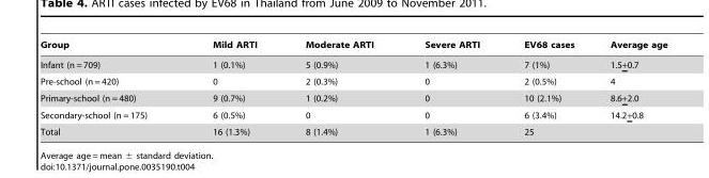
<table><thead><tr><td>Group</td><td>Mild ARTI</td><td>Moderate ARTI</td><td>Severe ARTI</td><td>EV68 cases</td><td>Average age</td></tr></thead><tbody><tr><td>Infant (n = 709)</td><td>1 (0.1%)</td><td>5 (0.9%)</td><td>1 (6.3%)</td><td>7 (1%)</td><td>1.5+0.7</td></tr><tr><td>Pre-school (n = 420)</td><td>0</td><td>2 (0.3%)</td><td>0</td><td>2 (0.5%)</td><td>4</td></tr><tr><td>Primary-school (n = 480)</td><td>9 (0.7%)</td><td>1 (0.2%)</td><td>0</td><td>10 (2.1%)</td><td>8.6+2.0</td></tr><tr><td>Secondary-school (n = 175)</td><td>6 (0.5%)</td><td>0</td><td>0</td><td>6 (3.4%)</td><td>14.2+0.8</td></tr><tr><td>Total</td><td>16 (1.3%)</td><td>8 (1.4%)</td><td>1 (6.3%)</td><td>25</td><td></td></tr></tbody></table>